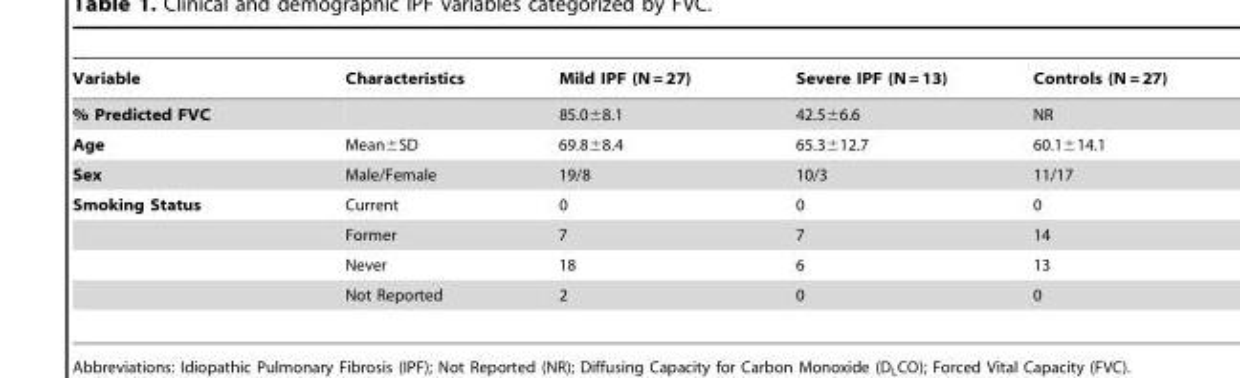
<table><thead><tr><td>Variable</td><td>Characteristics</td><td>Mild IPF (N = 27)</td><td>Severe IPF (N = 13)</td><td>Controls (N = 27)</td></tr></thead><tbody><tr><td>% Predicted FVC</td><td></td><td>85.0±8.1</td><td>42.5±6.6</td><td>NR</td></tr><tr><td>Age</td><td>Mean±SD</td><td>69.8±8.4</td><td>65.3±12.7</td><td>60.1±14.1</td></tr><tr><td>Sex</td><td>Male/Female</td><td>19/8</td><td>10/3</td><td>11/17</td></tr><tr><td rowspan="4">Smoking Status</td><td>Current</td><td>0</td><td>0</td><td>0</td></tr><tr><td>Former</td><td>7</td><td>7</td><td>14</td></tr><tr><td>Never</td><td>18</td><td>6</td><td>13</td></tr><tr><td>Not Reported</td><td>2</td><td>0</td><td>0</td></tr></tbody></table>